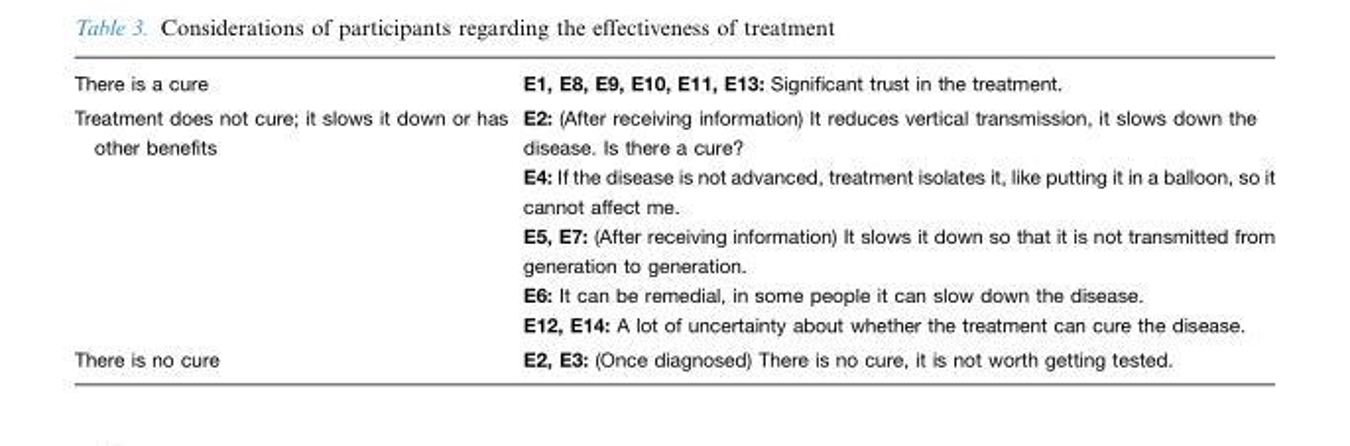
<table><tbody><tr><td>There is a cure</td><td>E1, E8, E9, E10, E11, E13: Significant trust in the treatment.</td></tr><tr><td rowspan="5">Treatment does not cure; it slows it down or has other benefits</td><td>E2: (After receiving information) It reduces vertical transmission, it slows down the disease. Is there a cure?</td></tr><tr><td>E4: If the disease is not advanced, treatment isolates it, like putting it in a balloon, so it cannot affect me.</td></tr><tr><td>E5, E7: (After receiving information) It slows it down so that it is not transmitted from generation to generation.</td></tr><tr><td>E6: It can be remedial, in some people it can slow down the disease.</td></tr><tr><td>E12, E14: A lot of uncertainty about whether the treatment can cure the disease.</td></tr><tr><td>There is no cure</td><td>E2, E3: (Once diagnosed) There is no cure, it is not worth getting tested.</td></tr></tbody></table>